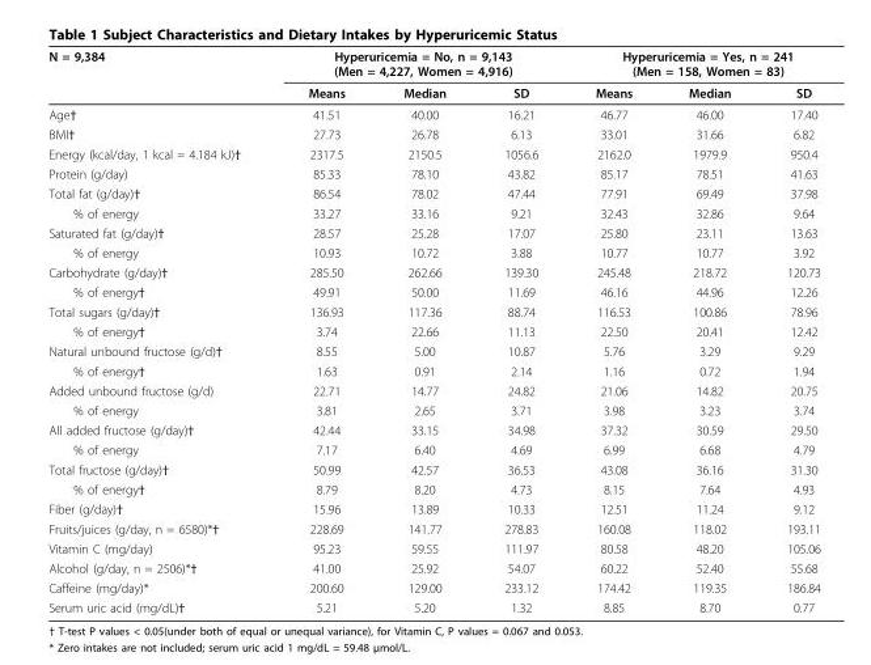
<table><thead><tr><td rowspan="2">N = 9,384</td><td colspan="3">Hyperuricemia = No, n = 9,143 (Men = 4,227, Women = 4,916)</td><td colspan="3">Hyperuricemia = Yes, n = 241 (Men = 158, Women = 83)</td></tr><tr><td>Means</td><td>Median</td><td>SD</td><td>Means</td><td>Median</td><td>SD</td></tr></thead><tbody><tr><td>Age†</td><td>41.51</td><td>40.00</td><td>16.21</td><td>46.77</td><td>46.00</td><td>17.40</td></tr><tr><td>BMI†</td><td>27.73</td><td>26.78</td><td>6.13</td><td>33.01</td><td>31.66</td><td>6.82</td></tr><tr><td>Energy (kcal/day, 1 kcal = 4.184 kJ)†</td><td>2317.5</td><td>2150.5</td><td>1056.6</td><td>2162.0</td><td>1979.9</td><td>950.4</td></tr><tr><td>Protein (g/day)</td><td>85.33</td><td>78.10</td><td>43.82</td><td>85.17</td><td>78.51</td><td>41.63</td></tr><tr><td>Total fat (g/day)†</td><td>86.54</td><td>78.02</td><td>47.44</td><td>77.91</td><td>69.49</td><td>37.98</td></tr><tr><td>% of energy</td><td>33.27</td><td>33.16</td><td>9.21</td><td>32.43</td><td>32.86</td><td>9.64</td></tr><tr><td>Saturated fat (g/day)†</td><td>28.57</td><td>25.28</td><td>17.07</td><td>25.80</td><td>23.11</td><td>13.63</td></tr><tr><td>% of energy</td><td>10.93</td><td>10.72</td><td>3.88</td><td>10.77</td><td>10.77</td><td>3.92</td></tr><tr><td>Carbohydrate (g/day)†</td><td>285.50</td><td>262.66</td><td>139.30</td><td>245.48</td><td>218.72</td><td>120.73</td></tr><tr><td>% of energy†</td><td>49.91</td><td>50.00</td><td>11.69</td><td>46.16</td><td>44.96</td><td>12.26</td></tr><tr><td>Total sugars (g/day)†</td><td>136.93</td><td>117.36</td><td>88.74</td><td>116.53</td><td>100.86</td><td>78.96</td></tr><tr><td>% of energy†</td><td>3.74</td><td>22.66</td><td>11.13</td><td>22.50</td><td>20.41</td><td>12.42</td></tr><tr><td>Natural unbound fructose (g/d)†</td><td>8.55</td><td>5.00</td><td>10.87</td><td>5.76</td><td>3.29</td><td>9.29</td></tr><tr><td>% of energy†</td><td>1.63</td><td>0.91</td><td>2.14</td><td>1.16</td><td>0.72</td><td>1.94</td></tr><tr><td>Added unbound fructose (g/d)</td><td>22.71</td><td>14.77</td><td>24.82</td><td>21.06</td><td>14.82</td><td>20.75</td></tr><tr><td>% of energy</td><td>3.81</td><td>2.65</td><td>3.71</td><td>3.98</td><td>3.23</td><td>3.74</td></tr><tr><td>All added fructose (g/day)†</td><td>42.44</td><td>33.15</td><td>34.98</td><td>37.32</td><td>30.59</td><td>29.50</td></tr><tr><td>% of energy</td><td>7.17</td><td>6.40</td><td>4.69</td><td>6.99</td><td>6.68</td><td>4.79</td></tr><tr><td>Total fructose (g/day)†</td><td>50.99</td><td>42.57</td><td>36.53</td><td>43.08</td><td>36.16</td><td>31.30</td></tr><tr><td>% of energy†</td><td>8.79</td><td>8.20</td><td>4.73</td><td>8.15</td><td>7.64</td><td>4.93</td></tr><tr><td>Fiber (g/day)†</td><td>15.96</td><td>13.89</td><td>10.33</td><td>12.51</td><td>11.24</td><td>9.12</td></tr><tr><td>Fruits/juices (g/day, n = 6580)*†</td><td>228.69</td><td>141.77</td><td>278.83</td><td>160.08</td><td>118.02</td><td>193.11</td></tr><tr><td>Vitamin C (mg/day)</td><td>95.23</td><td>59.55</td><td>111.97</td><td>80.58</td><td>48.20</td><td>105.06</td></tr><tr><td>Alcohol (g/day, n = 2506)*†</td><td>41.00</td><td>25.92</td><td>54.07</td><td>60.22</td><td>52.40</td><td>55.68</td></tr><tr><td>Caffeine (mg/day)*</td><td>200.60</td><td>129.00</td><td>233.12</td><td>174.42</td><td>119.35</td><td>186.84</td></tr><tr><td>Serum uric acid (mg/dL)†</td><td>5.21</td><td>5.20</td><td>1.32</td><td>8.85</td><td>8.70</td><td>0.77</td></tr></tbody></table>